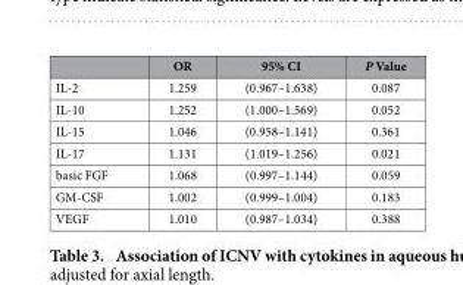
<table><thead><tr><td></td><td>OR</td><td>95% CI</td><td>P Value</td></tr></thead><tbody><tr><td>IL-2</td><td>1.259</td><td>(0.967–1.638)</td><td>0.087</td></tr><tr><td>IL-10</td><td>1.252</td><td>(1.000–1.569)</td><td>0.052</td></tr><tr><td>IL-15</td><td>1.046</td><td>(0.958–1.141)</td><td>0.361</td></tr><tr><td>IL-17</td><td>1.131</td><td>(1.019–1.256)</td><td>0.021</td></tr><tr><td>basic FGF</td><td>1.068</td><td>(0.997–1.144)</td><td>0.059</td></tr><tr><td>GM-CSF</td><td>1.002</td><td>(0.999–1.004)</td><td>0.183</td></tr><tr><td>VEGF</td><td>1.010</td><td>(0.987–1.034)</td><td>0.388</td></tr></tbody></table>